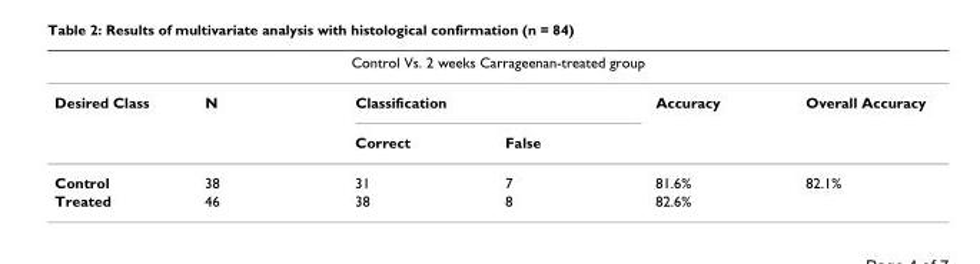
<table><thead><tr><td colspan="6">Control Vs. 2 weeks Carrageenan-treated group</td></tr><tr><td rowspan="2">Desired Class</td><td rowspan="2">N</td><td colspan="2">Classification</td><td rowspan="2">Accuracy</td><td rowspan="2">Overall Accuracy</td></tr><tr><td>Correct</td><td>False</td></tr></thead><tbody><tr><td>Control</td><td>38</td><td>31</td><td>7</td><td>81.6%</td><td>82.1%</td></tr><tr><td>Treated</td><td>46</td><td>38</td><td>8</td><td>82.6%</td><td></td></tr></tbody></table>